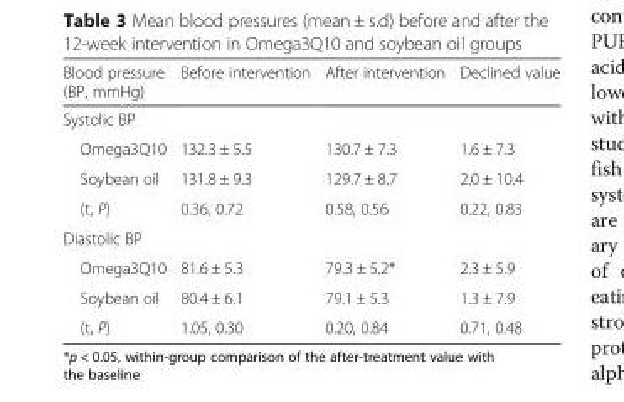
<table><thead><tr><td>Blood pressure (BP, mmHg)</td><td>Before intervention</td><td>After intervention</td><td>Declined value</td></tr></thead><tbody><tr><td colspan="4">Systolic BP</td></tr><tr><td>Omega3Q10</td><td>132.3 ± 5.5</td><td>130.7 ± 7.3</td><td>1.6 ± 7.3</td></tr><tr><td>Soybean oil</td><td>131.8 ± 9.3</td><td>129.7 ± 8.7</td><td>2.0 ± 10.4</td></tr><tr><td>(t, P)</td><td>0.36, 0.72</td><td>0.58, 0.56</td><td>0.22, 0.83</td></tr><tr><td colspan="4">Diastolic BP</td></tr><tr><td>Omega3Q10</td><td>81.6 ± 5.3</td><td>79.3 ± 5.2*</td><td>2.3 ± 5.9</td></tr><tr><td>Soybean oil</td><td>80.4 ± 6.1</td><td>79.1 ± 5.3</td><td>1.3 ± 7.9</td></tr><tr><td>(t, P)</td><td>1.05, 0.30</td><td>0.20, 0.84</td><td>0.71, 0.48</td></tr></tbody></table>